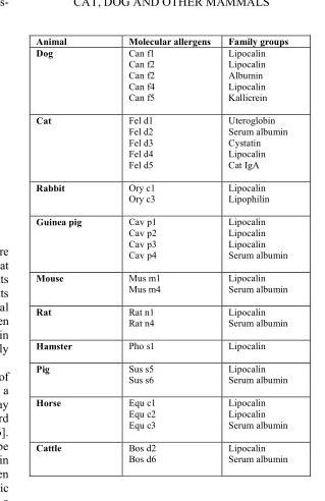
<table><thead><tr><td>Animal</td><td>Molecular allergens</td><td>Family groups</td></tr></thead><tbody><tr><td rowspan="5">Dog</td><td>Can f1</td><td>Lipocalin</td></tr><tr><td>Can f2</td><td>Lipocalin</td></tr><tr><td>Can f2</td><td>Albumin</td></tr><tr><td>Can f4</td><td>Lipocalin</td></tr><tr><td>Can f5</td><td>Kallicrein</td></tr><tr><td rowspan="5">Cat</td><td>Fel d1</td><td>Uteroglobin</td></tr><tr><td>Fel d2</td><td>Serum albumin</td></tr><tr><td>Fel d3</td><td>Cystatin</td></tr><tr><td>Fel d4</td><td>Lipocalin</td></tr><tr><td>Fel d5</td><td>Cat IgA</td></tr><tr><td rowspan="2">Rabbit</td><td>Ory c1</td><td>Lipocalin</td></tr><tr><td>Ory c3</td><td>Lipophilin</td></tr><tr><td rowspan="4">Guinea pig</td><td>Cav p1</td><td>Lipocalin</td></tr><tr><td>Cav p2</td><td>Lipocalin</td></tr><tr><td>Cav p3</td><td>Lipocalin</td></tr><tr><td>Cav p4</td><td>Serum albumin</td></tr><tr><td rowspan="2">Mouse</td><td>Mus m1</td><td>Lipocalin</td></tr><tr><td>Mus m4</td><td>Serum albumin</td></tr><tr><td rowspan="2">Rat</td><td>Rat n1</td><td>Lipocalin</td></tr><tr><td>Rat n4</td><td>Serum albumin</td></tr><tr><td>Hamster</td><td>Pho s1</td><td>Lipocalin</td></tr><tr><td rowspan="2">Pig</td><td>Sus s5</td><td>Lipocalin</td></tr><tr><td>Sus s6</td><td>Serum albumin</td></tr><tr><td rowspan="3">Horse</td><td>Equ c1</td><td>Lipocalin</td></tr><tr><td>Equ c2</td><td>Lipocalin</td></tr><tr><td>Equ c3</td><td>Serum albumin</td></tr><tr><td rowspan="2">Cattle</td><td>Bos d2</td><td>Lipocalin</td></tr><tr><td>Bos d6</td><td>Serum albumin</td></tr></tbody></table>